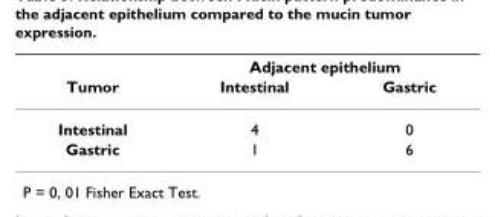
<table><thead><tr><td rowspan="2">Tumor</td><td colspan="2">Adjacent epithelium</td></tr><tr><td>Intestinal</td><td>Gastric</td></tr></thead><tbody><tr><td>Intestinal</td><td>4</td><td>0</td></tr><tr><td>Gastric</td><td>1</td><td>6</td></tr></tbody></table>